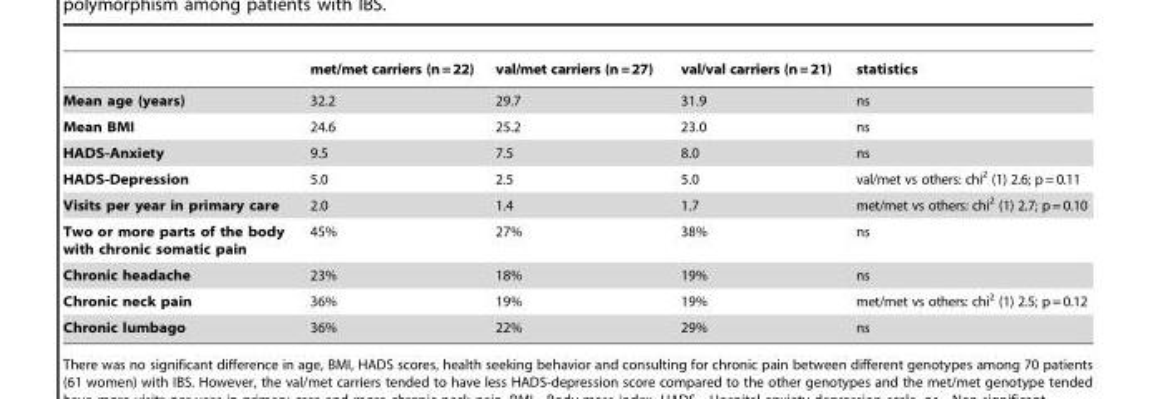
<table><thead><tr><td></td><td>met/met carriers (n=22)</td><td>val/met carriers (n=27)</td><td>val/val carriers (n=21)</td><td>statistics</td></tr></thead><tbody><tr><td>Mean age (years)</td><td>32.2</td><td>29.7</td><td>31.9</td><td>ns</td></tr><tr><td>Mean BMI</td><td>24.6</td><td>25.2</td><td>23.0</td><td>ns</td></tr><tr><td>HADS-Anxiety</td><td>9.5</td><td>7.5</td><td>8.0</td><td>ns</td></tr><tr><td>HADS-Depression</td><td>5.0</td><td>2.5</td><td>5.0</td><td>val/met vs others: chi<sup>2</sup> (1) 2.6; p=0.11</td></tr><tr><td>Visits per year in primary care</td><td>2.0</td><td>1.4</td><td>1.7</td><td>met/met vs others: chi<sup>2</sup> (1) 2.7; p=0.10</td></tr><tr><td>Two or more parts of the body with chronic somatic pain</td><td>45%</td><td>27%</td><td>38%</td><td>ns</td></tr><tr><td>Chronic headache</td><td>23%</td><td>18%</td><td>19%</td><td>ns</td></tr><tr><td>Chronic neck pain</td><td>36%</td><td>19%</td><td>19%</td><td>met/met vs others: chi<sup>2</sup> (1) 2.5; p=0.12</td></tr><tr><td>Chronic lumbago</td><td>36%</td><td>22%</td><td>29%</td><td>ns</td></tr></tbody></table>